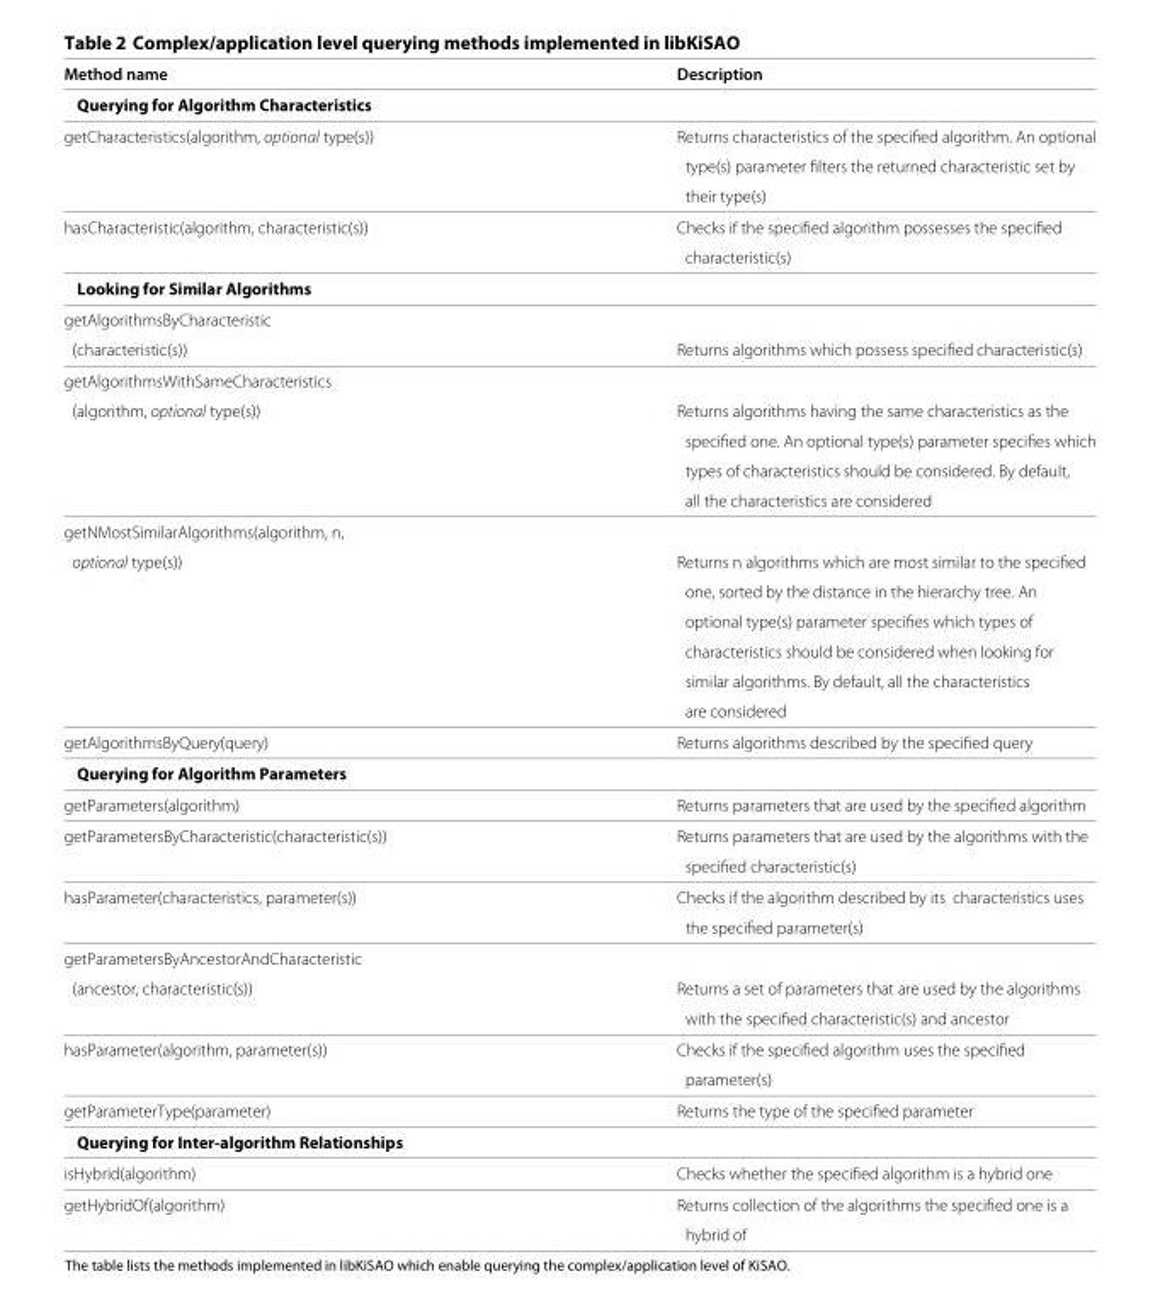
<table><thead><tr><td>Method name</td><td>Description</td></tr></thead><tbody><tr><td colspan="2">Querying for Algorithm Characteristics</td></tr><tr><td rowspan="3">getCharacteristics(algorithm, optional type(s))</td><td>Returns characteristics of the specified algorithm. An optional</td></tr><tr><td>type(s) parameter filters the returned characteristic set by</td></tr><tr><td>their type(s)</td></tr><tr><td rowspan="2">hasCharacteristic(algorithm, characteristic(s))</td><td>Checks if the specified algorithm possesses the specified</td></tr><tr><td>characteristic(s)</td></tr><tr><td colspan="2">Looking for Similar Algorithms</td></tr><tr><td colspan="2">getAlgorithmsByCharacteristic</td></tr><tr><td>(characteristic(s))</td><td>Returns algorithms which possess specified characteristic(s)</td></tr><tr><td colspan="2">getAlgorithmsWithSameCharacteristics</td></tr><tr><td rowspan="4">(algorithm, optional type(s))</td><td>Returns algorithms having the same characteristics as the</td></tr><tr><td>specified one. An optional type(s) parameter specifies which</td></tr><tr><td>types of characteristics should be considered. By default,</td></tr><tr><td>all the characteristics are considered</td></tr><tr><td colspan="2">getNMostSimilarAlgorithms(algorithm, n,</td></tr><tr><td rowspan="6">optional type(s))</td><td>Returns n algorithms which are most similar to the specified</td></tr><tr><td>one, sorted by the distance in the hierarchy tree. An</td></tr><tr><td>optional type(s) parameter specifies which types of</td></tr><tr><td>characteristics should be considered when looking for</td></tr><tr><td>similar algorithms. By default, all the characteristics</td></tr><tr><td>are considered</td></tr><tr><td>getAlgorithmsByQuery(query)</td><td>Returns algorithms described by the specified query</td></tr><tr><td colspan="2">Querying for Algorithm Parameters</td></tr><tr><td>getParameters(algorithm)</td><td>Returns parameters that are used by the specified algorithm</td></tr><tr><td rowspan="2">getParametersByCharacteristic(characteristic(s))</td><td>Returns parameters that are used by the algorithms with the</td></tr><tr><td>specified characteristic(s)</td></tr><tr><td rowspan="2">hasParameter(characteristics, parameter(s))</td><td>Checks if the algorithm described by its characteristics uses</td></tr><tr><td>the specified parameter(s)</td></tr><tr><td colspan="2">getParametersByAncestorAndCharacteristic</td></tr><tr><td rowspan="2">(ancestor, characteristic(s))</td><td>Returns a set of parameters that are used by the algorithms</td></tr><tr><td>with the specified characteristic(s) and ancestor</td></tr><tr><td rowspan="2">hasParameter(algorithm, parameter(s))</td><td>Checks if the specified algorithm uses the specified</td></tr><tr><td>parameter(s)</td></tr><tr><td>getParameterType(parameter)</td><td>Returns the type of the specified parameter</td></tr><tr><td colspan="2">Querying for Inter-algorithm Relationships</td></tr><tr><td>isHybrid(algorithm)</td><td>Checks whether the specified algorithm is a hybrid one</td></tr><tr><td rowspan="2">getHybridOf(algorithm)</td><td>Returns collection of the algorithms the specified one is a</td></tr><tr><td>hybrid of</td></tr></tbody></table>